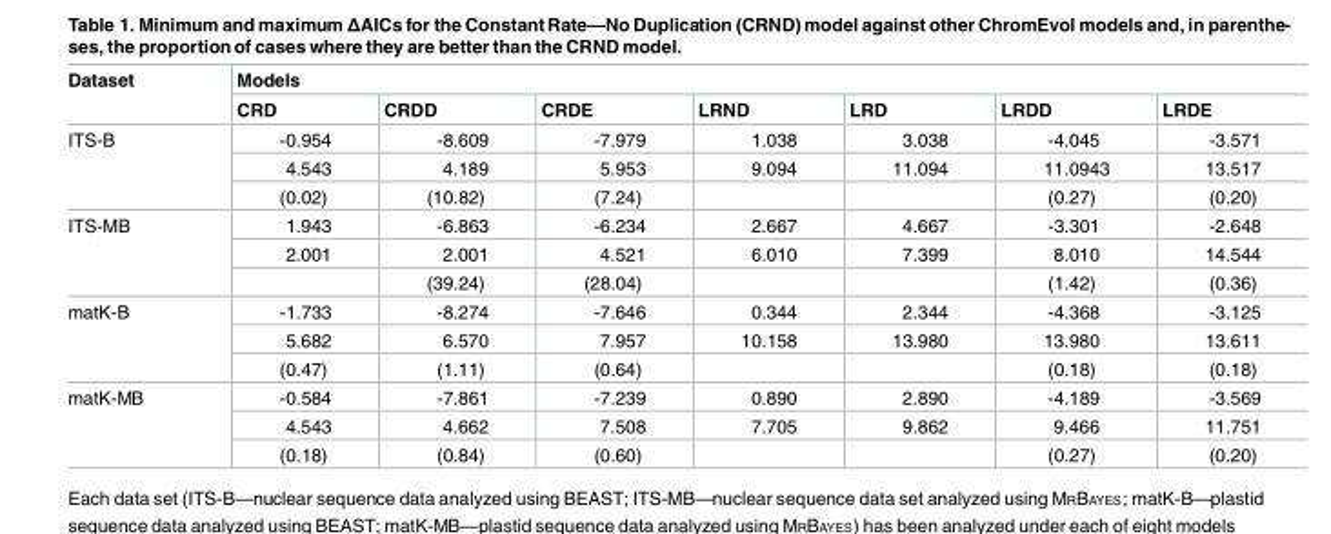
<table><thead><tr><td rowspan="2">Dataset</td><td colspan="7">Models</td></tr><tr><td>CRD</td><td>CRDD</td><td>CRDE</td><td>LRND</td><td>LRD</td><td>LRDD</td><td>LRDE</td></tr></thead><tbody><tr><td rowspan="3">ITS-B</td><td>-0.954</td><td>-8.609</td><td>-7.979</td><td>1.038</td><td>3.038</td><td>-4.045</td><td>-3.571</td></tr><tr><td>4.543</td><td>4.189</td><td>5.953</td><td>9.094</td><td>11.094</td><td>11.0943</td><td>13.517</td></tr><tr><td>(0.02)</td><td>(10.82)</td><td>(7.24)</td><td></td><td></td><td>(0.27)</td><td>(0.20)</td></tr><tr><td rowspan="3">ITS-MB</td><td>1.943</td><td>-6.863</td><td>-6.234</td><td>2.667</td><td>4.667</td><td>-3.301</td><td>-2.648</td></tr><tr><td>2.001</td><td>2.001</td><td>4.521</td><td>6.010</td><td>7.399</td><td>8.010</td><td>14.544</td></tr><tr><td></td><td>(39.24)</td><td>(28.04)</td><td></td><td></td><td>(1.42)</td><td>(0.36)</td></tr><tr><td rowspan="3">matK-B</td><td>-1.733</td><td>-8.274</td><td>-7.646</td><td>0.344</td><td>2.344</td><td>-4.368</td><td>-3.125</td></tr><tr><td>5.682</td><td>6.570</td><td>7.957</td><td>10.158</td><td>13.980</td><td>13.980</td><td>13.611</td></tr><tr><td>(0.47)</td><td>(1.11)</td><td>(0.64)</td><td></td><td></td><td>(0.18)</td><td>(0.18)</td></tr><tr><td rowspan="3">matK-MB</td><td>-0.584</td><td>-7.861</td><td>-7.239</td><td>0.890</td><td>2.890</td><td>-4.189</td><td>-3.569</td></tr><tr><td>4.543</td><td>4.662</td><td>7.508</td><td>7.705</td><td>9.862</td><td>9.466</td><td>11.751</td></tr><tr><td>(0.18)</td><td>(0.84)</td><td>(0.60)</td><td></td><td></td><td>(0.27)</td><td>(0.20)</td></tr></tbody></table>